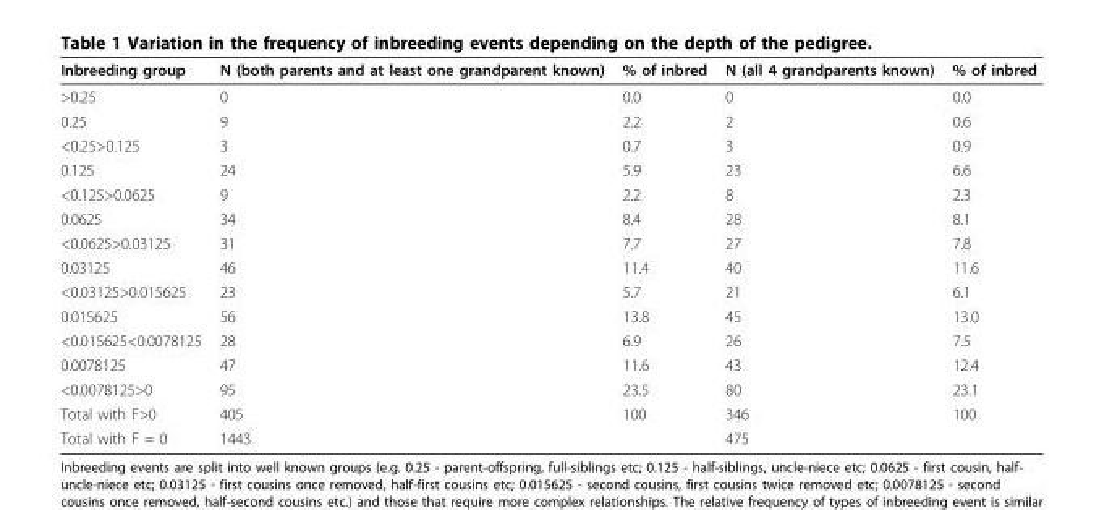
<table><thead><tr><td>Inbreeding group</td><td>N (both parents and at least one grandparent known)</td><td>% of inbred</td><td>N (all 4 grandparents known)</td><td>% of inbred</td></tr></thead><tbody><tr><td>&gt;0.25</td><td>0</td><td>0.0</td><td>0</td><td>0.0</td></tr><tr><td>0.25</td><td>9</td><td>2.2</td><td>2</td><td>0.6</td></tr><tr><td>&lt;0.25&gt;0.125</td><td>3</td><td>0.7</td><td>3</td><td>0.9</td></tr><tr><td>0.125</td><td>24</td><td>5.9</td><td>23</td><td>6.6</td></tr><tr><td>&lt;0.125&gt;0.0625</td><td>9</td><td>2.2</td><td>8</td><td>2.3</td></tr><tr><td>0.0625</td><td>34</td><td>8.4</td><td>28</td><td>8.1</td></tr><tr><td>&lt;0.0625&gt;0.03125</td><td>31</td><td>7.7</td><td>27</td><td>7.8</td></tr><tr><td>0.03125</td><td>46</td><td>11.4</td><td>40</td><td>11.6</td></tr><tr><td>&lt;0.03125&gt;0.015625</td><td>23</td><td>5.7</td><td>21</td><td>6.1</td></tr><tr><td>0.015625</td><td>56</td><td>13.8</td><td>45</td><td>13.0</td></tr><tr><td>&lt;0.015625&lt;0.0078125</td><td>28</td><td>6.9</td><td>26</td><td>7.5</td></tr><tr><td>0.0078125</td><td>47</td><td>11.6</td><td>43</td><td>12.4</td></tr><tr><td>&lt;0.0078125&gt;0</td><td>95</td><td>23.5</td><td>80</td><td>23.1</td></tr><tr><td>Total with F&gt;0</td><td>405</td><td>100</td><td>346</td><td>100</td></tr><tr><td>Total with F = 0</td><td>1443</td><td></td><td>475</td><td></td></tr></tbody></table>